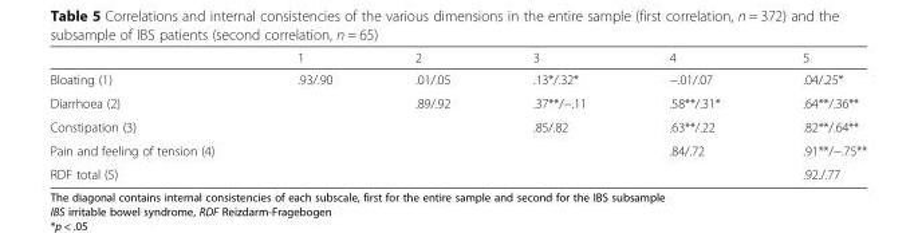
<table><thead><tr><td></td><td>1</td><td>2</td><td>3</td><td>4</td><td>5</td></tr></thead><tbody><tr><td>Bloating (1)</td><td>.93/.90</td><td>.01/.05</td><td>.13*/.32*</td><td>−.01/.07</td><td>.04/.25*</td></tr><tr><td>Diarrhoea (2)</td><td></td><td>.89/.92</td><td>.37**/−.11</td><td>.58**/.31*</td><td>.64**/.36**</td></tr><tr><td>Constipation (3)</td><td></td><td></td><td>.85/.82</td><td>.63**/.22</td><td>.82**/.64**</td></tr><tr><td>Pain and feeling of tension (4)</td><td></td><td></td><td></td><td>.84/.72</td><td>.91**/−.75**</td></tr><tr><td>RDF total (5)</td><td></td><td></td><td></td><td></td><td>.92./.77</td></tr></tbody></table>